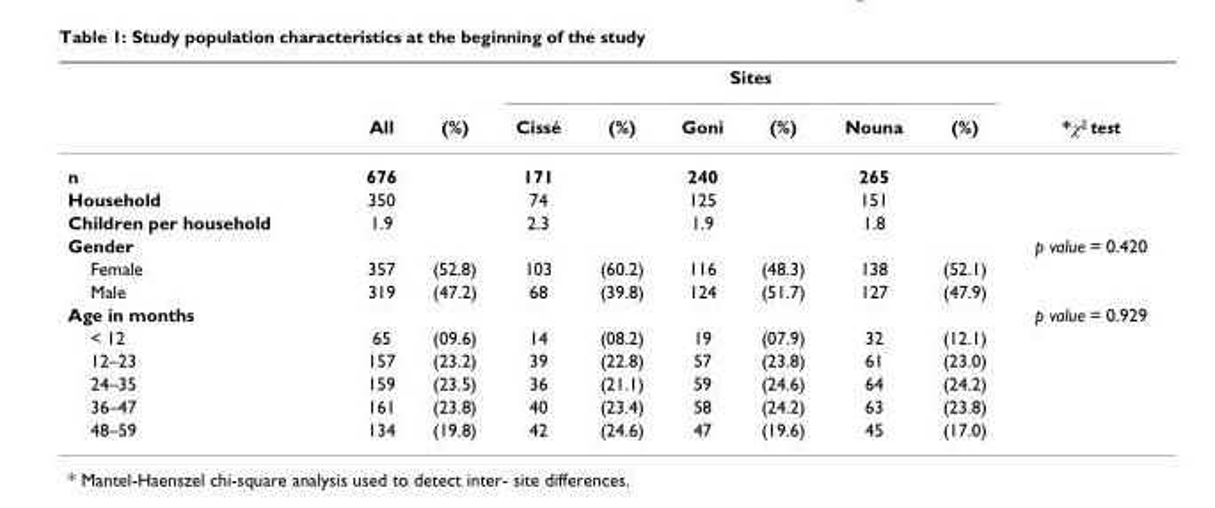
<table><thead><tr><td rowspan="2"></td><td rowspan="2">All</td><td rowspan="2">(%)</td><td colspan="6">Sites</td><td rowspan="2">*χ<sup>2</sup> test</td></tr><tr><td>Cissé</td><td>(%)</td><td>Goni</td><td>(%)</td><td>Nouna</td><td>(%)</td></tr></thead><tbody><tr><td>n</td><td>676</td><td></td><td>171</td><td></td><td>240</td><td></td><td>265</td><td></td><td></td></tr><tr><td>Household</td><td>350</td><td></td><td>74</td><td></td><td>125</td><td></td><td>151</td><td></td><td></td></tr><tr><td>Children per household</td><td>1.9</td><td></td><td>2.3</td><td></td><td>1.9</td><td></td><td>1.8</td><td></td><td></td></tr><tr><td>Gender</td><td></td><td></td><td></td><td></td><td></td><td></td><td></td><td></td><td>p value = 0.420</td></tr><tr><td>Female</td><td>357</td><td>(52.8)</td><td>103</td><td>(60.2)</td><td>116</td><td>(48.3)</td><td>138</td><td>(52.1)</td><td></td></tr><tr><td>Male</td><td>319</td><td>(47.2)</td><td>68</td><td>(39.8)</td><td>124</td><td>(51.7)</td><td>127</td><td>(47.9)</td><td></td></tr><tr><td>Age in months</td><td></td><td></td><td></td><td></td><td></td><td></td><td></td><td></td><td>p value = 0.929</td></tr><tr><td>&lt; 12</td><td>65</td><td>(09.6)</td><td>14</td><td>(08.2)</td><td>19</td><td>(07.9)</td><td>32</td><td>(12.1)</td><td></td></tr><tr><td>12–23</td><td>157</td><td>(23.2)</td><td>39</td><td>(22.8)</td><td>57</td><td>(23.8)</td><td>61</td><td>(23.0)</td><td></td></tr><tr><td>24–35</td><td>159</td><td>(23.5)</td><td>36</td><td>(21.1)</td><td>59</td><td>(24.6)</td><td>64</td><td>(24.2)</td><td></td></tr><tr><td>36–47</td><td>161</td><td>(23.8)</td><td>40</td><td>(23.4)</td><td>58</td><td>(24.2)</td><td>63</td><td>(23.8)</td><td></td></tr><tr><td>48–59</td><td>134</td><td>(19.8)</td><td>42</td><td>(24.6)</td><td>47</td><td>(19.6)</td><td>45</td><td>(17.0)</td><td></td></tr></tbody></table>